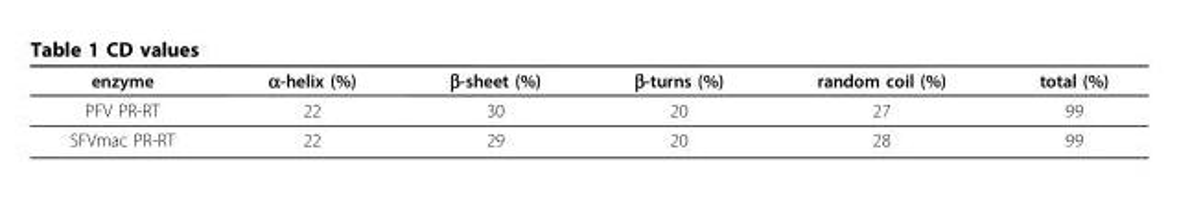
<table><thead><tr><td>enzyme</td><td>α-helix (%)</td><td>β-sheet (%)</td><td>β-turns (%)</td><td>random coil (%)</td><td>total (%)</td></tr></thead><tbody><tr><td>PFV PR-RT</td><td>22</td><td>30</td><td>20</td><td>27</td><td>99</td></tr><tr><td>SFVmac PR-RT</td><td>22</td><td>29</td><td>20</td><td>28</td><td>99</td></tr></tbody></table>